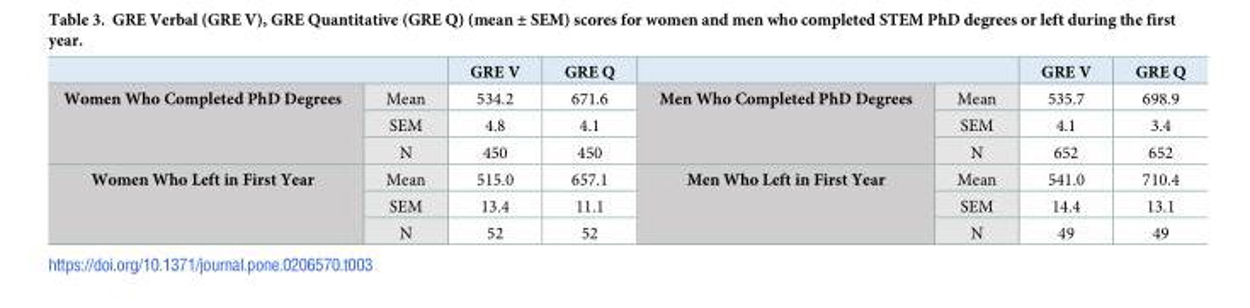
<table><thead><tr><td></td><td></td><td>GRE V</td><td>GRE Q</td><td></td><td></td><td>GRE V</td><td>GRE Q</td></tr></thead><tbody><tr><td rowspan="3">Women Who Completed PhD Degrees</td><td>Mean</td><td>534.2</td><td>671.6</td><td rowspan="3">Men Who Completed PhD Degrees</td><td>Mean</td><td>535.7</td><td>698.9</td></tr><tr><td>SEM</td><td>4.8</td><td>4.1</td><td>SEM</td><td>4.1</td><td>3.4</td></tr><tr><td>N</td><td>450</td><td>450</td><td>N</td><td>652</td><td>652</td></tr><tr><td rowspan="3">Women Who Left in First Year</td><td>Mean</td><td>515.0</td><td>657.1</td><td rowspan="3">Men Who Left in First Year</td><td>Mean</td><td>541.0</td><td>710.4</td></tr><tr><td>SEM</td><td>13.4</td><td>11.1</td><td>SEM</td><td>14.4</td><td>13.1</td></tr><tr><td>N</td><td>52</td><td>52</td><td>N</td><td>49</td><td>49</td></tr></tbody></table>